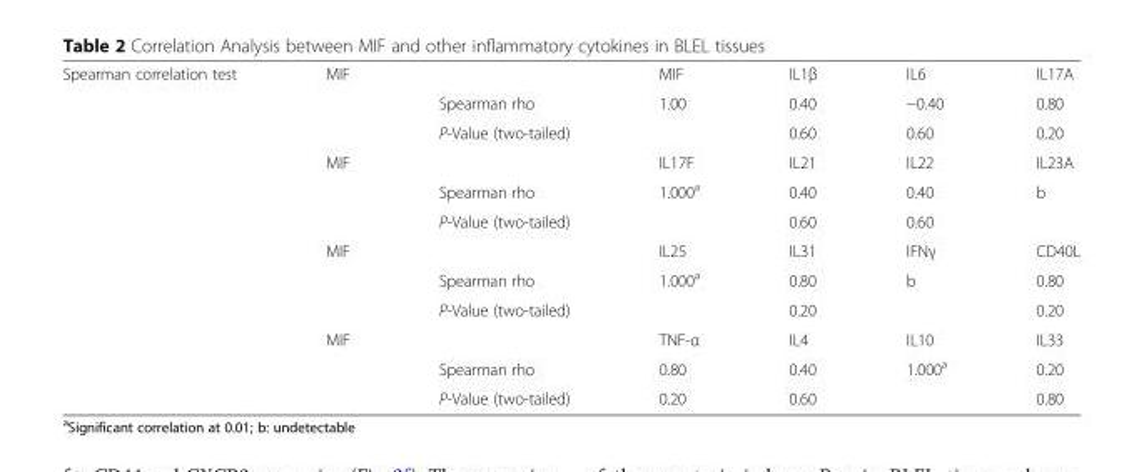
<table><tbody><tr><td rowspan="12">Spearman correlation test</td><td rowspan="3">MIF</td><td></td><td>MIF</td><td>IL1β</td><td>IL6</td><td>IL17A</td></tr><tr><td>Spearman rho</td><td>1.00</td><td>0.40</td><td>−0.40</td><td>0.80</td></tr><tr><td>P-Value (two-tailed)</td><td></td><td>0.60</td><td>0.60</td><td>0.20</td></tr><tr><td rowspan="3">MIF</td><td></td><td>IL17F</td><td>IL21</td><td>IL22</td><td>IL23A</td></tr><tr><td>Spearman rho</td><td>1.000<sup>a</sup></td><td>0.40</td><td>0.40</td><td>b</td></tr><tr><td>P-Value (two-tailed)</td><td></td><td>0.60</td><td>0.60</td><td></td></tr><tr><td rowspan="3">MIF</td><td></td><td>IL25</td><td>IL31</td><td>IFNγ</td><td>CD40L</td></tr><tr><td>Spearman rho</td><td>1.000<sup>a</sup></td><td>0.80</td><td>b</td><td>0.80</td></tr><tr><td>P-Value (two-tailed)</td><td></td><td>0.20</td><td></td><td>0.20</td></tr><tr><td rowspan="3">MIF</td><td></td><td>TNF-α</td><td>IL4</td><td>IL10</td><td>IL33</td></tr><tr><td>Spearman rho</td><td>0.80</td><td>0.40</td><td>1.000<sup>a</sup></td><td>0.20</td></tr><tr><td>P-Value (two-tailed)</td><td>0.20</td><td>0.60</td><td></td><td>0.80</td></tr></tbody></table>